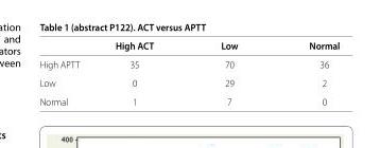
<table><thead><tr><td></td><td>High ACT</td><td>Low</td><td>Normal</td></tr></thead><tbody><tr><td>High APTT</td><td>35</td><td>70</td><td>36</td></tr><tr><td>Low</td><td>0</td><td>29</td><td>2</td></tr><tr><td>Normal</td><td>1</td><td>7</td><td>0</td></tr></tbody></table>